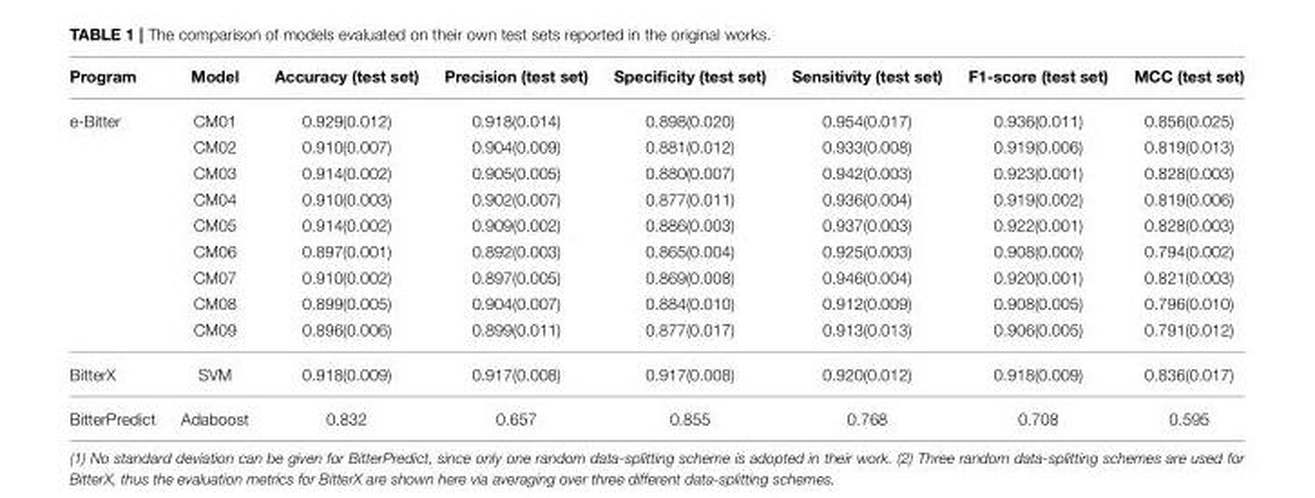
<table><thead><tr><td>Program</td><td>Model</td><td>Accuracy (test set)</td><td>Precision (test set)</td><td>Specificity (test set)</td><td>Sensitivity (test set)</td><td>F1-score (test set)</td><td>MCC (test set)</td></tr></thead><tbody><tr><td rowspan="9">e-Bitter</td><td>CM01</td><td>0.929(0.012)</td><td>0.918(0.014)</td><td>0.898(0.020)</td><td>0.954(0.017)</td><td>0.936(0.011)</td><td>0.856(0.025)</td></tr><tr><td>CM02</td><td>0.910(0.007)</td><td>0.904(0.009)</td><td>0.881(0.012)</td><td>0.933(0.008)</td><td>0.919(0.006)</td><td>0.819(0.013)</td></tr><tr><td>CM03</td><td>0.914(0.002)</td><td>0.905(0.005)</td><td>0.880(0.007)</td><td>0.942(0.003)</td><td>0.923(0.001)</td><td>0.828(0.003)</td></tr><tr><td>CM04</td><td>0.910(0.003)</td><td>0.902(0.007)</td><td>0.877(0.011)</td><td>0.936(0.004)</td><td>0.919(0.002)</td><td>0.819(0.006)</td></tr><tr><td>CM05</td><td>0.914(0.002)</td><td>0.909(0.002)</td><td>0.886(0.003)</td><td>0.937(0.003)</td><td>0.922(0.001)</td><td>0.828(0.003)</td></tr><tr><td>CM06</td><td>0.897(0.001)</td><td>0.892(0.003)</td><td>0.865(0.004)</td><td>0.925(0.003)</td><td>0.908(0.000)</td><td>0.794(0.002)</td></tr><tr><td>CM07</td><td>0.910(0.002)</td><td>0.897(0.005)</td><td>0.869(0.008)</td><td>0.946(0.004)</td><td>0.920(0.001)</td><td>0.821(0.003)</td></tr><tr><td>CM08</td><td>0.899(0.005)</td><td>0.904(0.007)</td><td>0.884(0.010)</td><td>0.912(0.009)</td><td>0.908(0.005)</td><td>0.796(0.010)</td></tr><tr><td>CM09</td><td>0.896(0.006)</td><td>0.899(0.011)</td><td>0.877(0.017)</td><td>0.913(0.013)</td><td>0.906(0.005)</td><td>0.791(0.012)</td></tr><tr><td>BitterX</td><td>SVM</td><td>0.918(0.009)</td><td>0.917(0.008)</td><td>0.917(0.008)</td><td>0.920(0.012)</td><td>0.918(0.009)</td><td>0.836(0.017)</td></tr><tr><td>BitterPredict</td><td>Adaboost</td><td>0.832</td><td>0.657</td><td>0.855</td><td>0.768</td><td>0.708</td><td>0.595</td></tr></tbody></table>